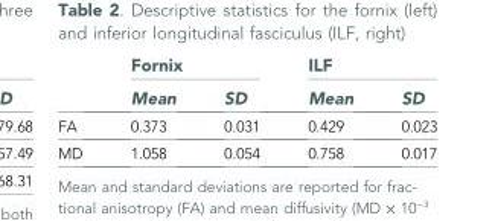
<table><thead><tr><td rowspan="2"></td><td colspan="2">Fornix</td><td colspan="2">ILF</td></tr><tr><td>Mean</td><td>SD</td><td>Mean</td><td>SD</td></tr></thead><tbody><tr><td>FA</td><td>0.373</td><td>0.031</td><td>0.429</td><td>0.023</td></tr><tr><td>MD</td><td>1.058</td><td>0.054</td><td>0.758</td><td>0.017</td></tr></tbody></table>